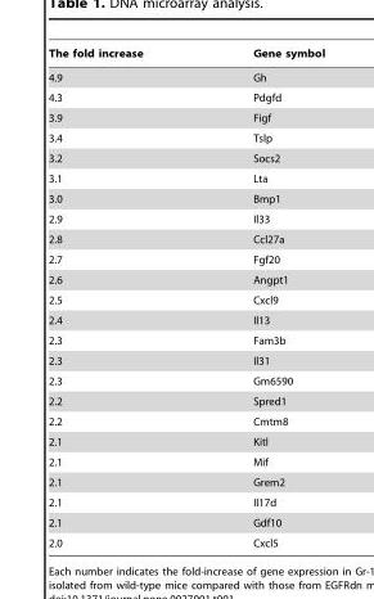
<table><thead><tr><td>The fold increase</td><td>Gene symbol</td></tr></thead><tbody><tr><td>4.9</td><td>Gh</td></tr><tr><td>4.3</td><td>Pdgfd</td></tr><tr><td>3.9</td><td>Figf</td></tr><tr><td>3.4</td><td>Tslp</td></tr><tr><td>3.2</td><td>Socs2</td></tr><tr><td>3.1</td><td>Lta</td></tr><tr><td>3.0</td><td>Bmp1</td></tr><tr><td>2.9</td><td>Il33</td></tr><tr><td>2.8</td><td>Ccl27a</td></tr><tr><td>2.7</td><td>Fgf20</td></tr><tr><td>2.6</td><td>Angpt1</td></tr><tr><td>2.5</td><td>Cxcl9</td></tr><tr><td>2.4</td><td>Il13</td></tr><tr><td>2.3</td><td>Fam3b</td></tr><tr><td>2.3</td><td>Il31</td></tr><tr><td>2.3</td><td>Gm6590</td></tr><tr><td>2.2</td><td>Spred1</td></tr><tr><td>2.2</td><td>Cmtm8</td></tr><tr><td>2.1</td><td>Kitl</td></tr><tr><td>2.1</td><td>Mif</td></tr><tr><td>2.1</td><td>Grem2</td></tr><tr><td>2.1</td><td>Il17d</td></tr><tr><td>2.1</td><td>Gdf10</td></tr><tr><td>2.0</td><td>Cxcl5</td></tr></tbody></table>